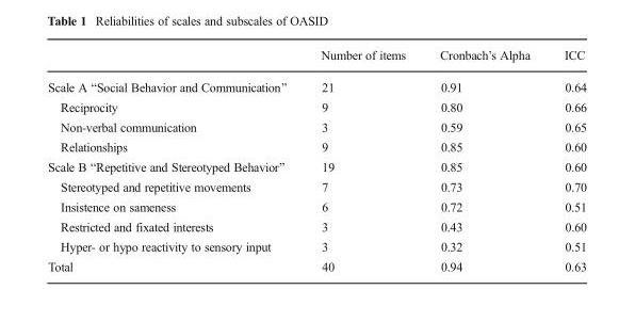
<table><thead><tr><td></td><td>Number of items</td><td>Cronbach’s Alpha</td><td>ICC</td></tr></thead><tbody><tr><td>Scale A “Social Behavior and Communication”</td><td>21</td><td>0.91</td><td>0.64</td></tr><tr><td>Reciprocity</td><td>9</td><td>0.80</td><td>0.66</td></tr><tr><td>Non-verbal communication</td><td>3</td><td>0.59</td><td>0.65</td></tr><tr><td>Relationships</td><td>9</td><td>0.85</td><td>0.60</td></tr><tr><td>Scale B “Repetitive and Stereotyped Behavior”</td><td>19</td><td>0.85</td><td>0.60</td></tr><tr><td>Stereotyped and repetitive movements</td><td>7</td><td>0.73</td><td>0.70</td></tr><tr><td>Insistence on sameness</td><td>6</td><td>0.72</td><td>0.51</td></tr><tr><td>Restricted and fixated interests</td><td>3</td><td>0.43</td><td>0.60</td></tr><tr><td>Hyper- or hypo reactivity to sensory input</td><td>3</td><td>0.32</td><td>0.51</td></tr><tr><td>Total</td><td>40</td><td>0.94</td><td>0.63</td></tr></tbody></table>